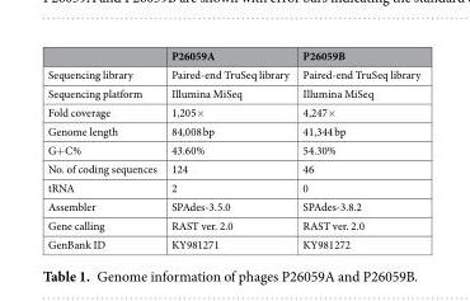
<table><thead><tr><td></td><td>P26059A</td><td>P26059B</td></tr></thead><tbody><tr><td>Sequencing library</td><td>Paired-end TruSeq library</td><td>Paired-end TruSeq library</td></tr><tr><td>Sequencing platform</td><td>Illumina MiSeq</td><td>Illumina MiSeq</td></tr><tr><td>Fold coverage</td><td>1,205×</td><td>4,247×</td></tr><tr><td>Genome length</td><td>84,008 bp</td><td>41,344 bp</td></tr><tr><td>G+C%</td><td>43.60%</td><td>54.30%</td></tr><tr><td>No. of coding sequences</td><td>124</td><td>46</td></tr><tr><td>tRNA</td><td>2</td><td>0</td></tr><tr><td>Assembler</td><td>SPAdes-3.5.0</td><td>SPAdes-3.8.2</td></tr><tr><td>Gene calling</td><td>RAST ver. 2.0</td><td>RAST ver. 2.0</td></tr><tr><td>GenBank ID</td><td>KY981271</td><td>KY981272</td></tr></tbody></table>